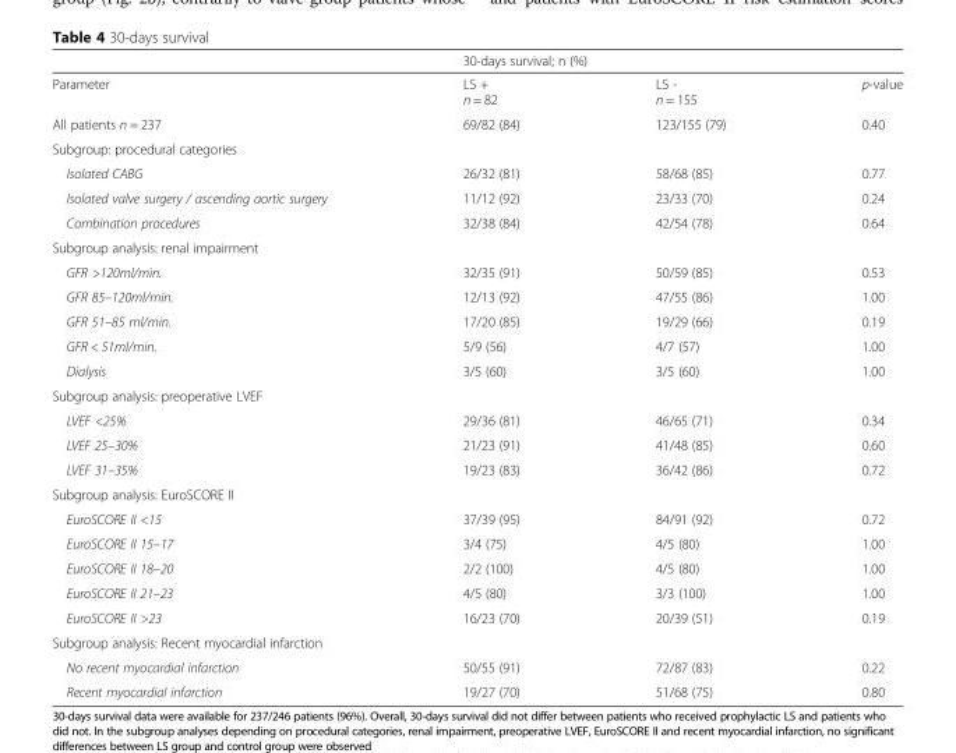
<table><thead><tr><td rowspan="2">Parameter</td><td colspan="3">30-days survival; n (%)</td></tr><tr><td>LS + n = 82</td><td>LS - n = 155</td><td>p-value</td></tr></thead><tbody><tr><td>All patients n = 237</td><td>69/82 (84)</td><td>123/155 (79)</td><td>0.40</td></tr><tr><td colspan="4">Subgroup: procedural categories</td></tr><tr><td>Isolated CABG</td><td>26/32 (81)</td><td>58/68 (85)</td><td>0.77</td></tr><tr><td>Isolated valve surgery / ascending aortic surgery</td><td>11/12 (92)</td><td>23/33 (70)</td><td>0.24</td></tr><tr><td>Combination procedures</td><td>32/38 (84)</td><td>42/54 (78)</td><td>0.64</td></tr><tr><td colspan="4">Subgroup analysis: renal impairment</td></tr><tr><td>GFR &gt;120ml/min.</td><td>32/35 (91)</td><td>50/59 (85)</td><td>0.53</td></tr><tr><td>GFR 85–120ml/min.</td><td>12/13 (92)</td><td>47/55 (86)</td><td>1.00</td></tr><tr><td>GFR 51–85 ml/min.</td><td>17/20 (85)</td><td>19/29 (66)</td><td>0.19</td></tr><tr><td>GFR &lt; 51ml/min.</td><td>5/9 (56)</td><td>4/7 (57)</td><td>1.00</td></tr><tr><td>Dialysis</td><td>3/5 (60)</td><td>3/5 (60)</td><td>1.00</td></tr><tr><td colspan="4">Subgroup analysis: preoperative LVEF</td></tr><tr><td>LVEF &lt;25%</td><td>29/36 (81)</td><td>46/65 (71)</td><td>0.34</td></tr><tr><td>LVEF 25–30%</td><td>21/23 (91)</td><td>41/48 (85)</td><td>0.60</td></tr><tr><td>LVEF 31–35%</td><td>19/23 (83)</td><td>36/42 (86)</td><td>0.72</td></tr><tr><td colspan="4">Subgroup analysis: EuroSCORE II</td></tr><tr><td>EuroSCORE II &lt;15</td><td>37/39 (95)</td><td>84/91 (92)</td><td>0.72</td></tr><tr><td>EuroSCORE II 15–17</td><td>3/4 (75)</td><td>4/5 (80)</td><td>1.00</td></tr><tr><td>EuroSCORE II 18–20</td><td>2/2 (100)</td><td>4/5 (80)</td><td>1.00</td></tr><tr><td>EuroSCORE II 21–23</td><td>4/5 (80)</td><td>3/3 (100)</td><td>1.00</td></tr><tr><td>EuroSCORE II &gt;23</td><td>16/23 (70)</td><td>20/39 (51)</td><td>0.19</td></tr><tr><td colspan="4">Subgroup analysis: Recent myocardial infarction</td></tr><tr><td>No recent myocardial infarction</td><td>50/55 (91)</td><td>72/87 (83)</td><td>0.22</td></tr><tr><td>Recent myocardial infarction</td><td>19/27 (70)</td><td>51/68 (75)</td><td>0.80</td></tr></tbody></table>